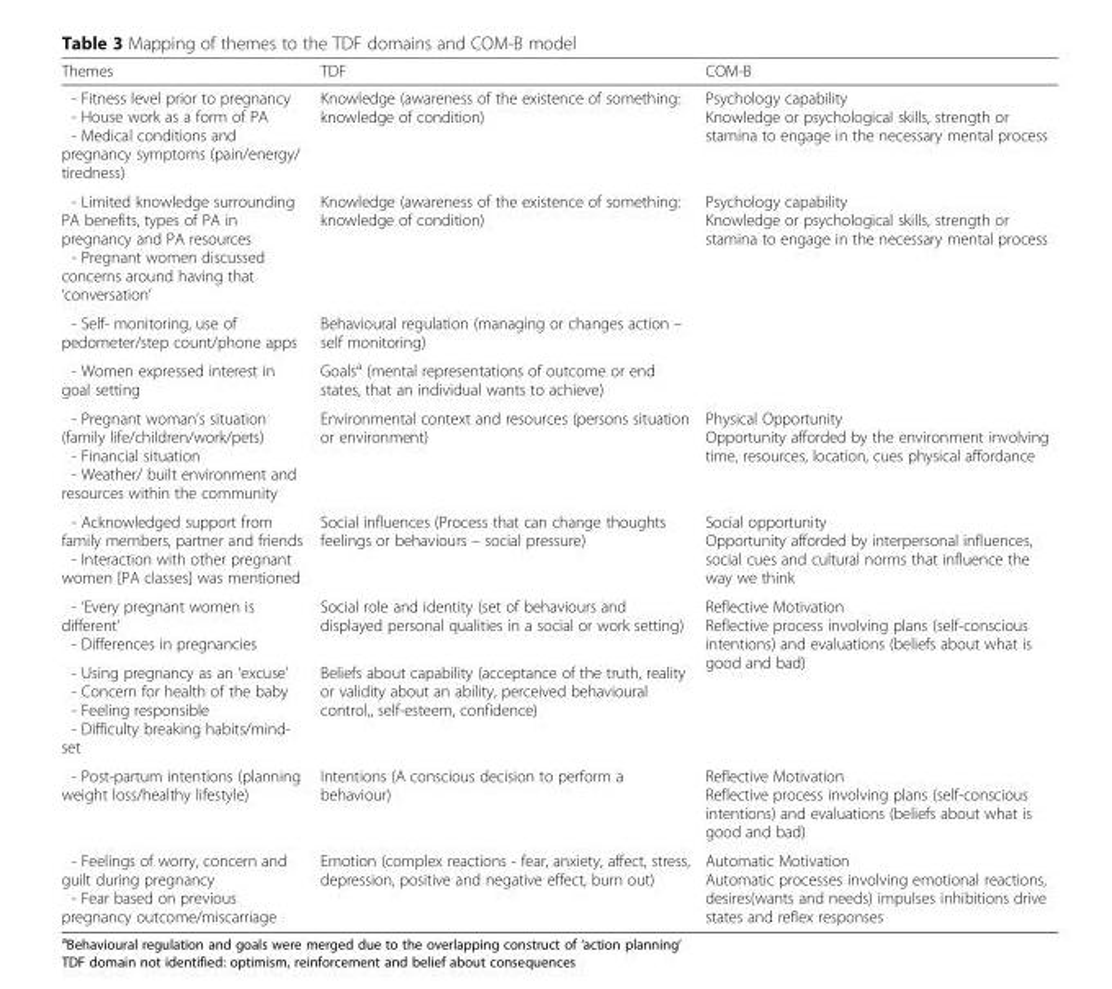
<table><thead><tr><td>Themes</td><td>TDF</td><td>COM-B</td></tr></thead><tbody><tr><td>- Fitness level prior to pregnancy - House work as a form of PA - Medical conditions and pregnancy symptoms (pain/energy/ tiredness)</td><td>Knowledge (awareness of the existence of something: knowledge of condition)</td><td>Psychology capability Knowledge or psychological skills, strength or stamina to engage in the necessary mental process</td></tr><tr><td>- Limited knowledge surrounding PA benefits, types of PA in pregnancy and PA resources - Pregnant women discussed concerns around having that ‘conversation’</td><td>Knowledge (awareness of the existence of something: knowledge of condition)</td><td rowspan="3">Psychology capability Knowledge or psychological skills, strength or stamina to engage in the necessary mental process</td></tr><tr><td>- Self- monitoring, use of pedometer/step count/phone apps</td><td>Behavioural regulation (managing or changes action – self monitoring)</td></tr><tr><td>- Women expressed interest in goal setting</td><td>Goals<sup>a</sup> (mental representations of outcome or end states, that an individual wants to achieve)</td></tr><tr><td>- Pregnant woman’s situation (family life/children/work/pets) - Financial situation - Weather/ built environment and resources within the community</td><td>Environmental context and resources (persons situation or environment)</td><td>Physical Opportunity Opportunity afforded by the environment involving time, resources, location, cues physical affordance</td></tr><tr><td>- Acknowledged support from family members, partner and friends - Interaction with other pregnant women [PA classes] was mentioned</td><td>Social influences (Process that can change thoughts feelings or behaviours – social pressure)</td><td>Social opportunity Opportunity afforded by interpersonal influences, social cues and cultural norms that influence the way we think</td></tr><tr><td>- ‘Every pregnant women is different’ - Differences in pregnancies</td><td>Social role and identity (set of behaviours and displayed personal qualities in a social or work setting)</td><td rowspan="2">Reflective Motivation Reflective process involving plans (self-conscious intentions) and evaluations (beliefs about what is good and bad)</td></tr><tr><td>- Using pregnancy as an ‘excuse’ - Concern for health of the baby - Feeling responsible - Difficulty breaking habits/mind- set</td><td>Beliefs about capability (acceptance of the truth, reality or validity about an ability, perceived behavioural control,, self-esteem, confidence)</td></tr><tr><td>- Post-partum intentions (planning weight loss/healthy lifestyle)</td><td>Intentions (A conscious decision to perform a behaviour)</td><td>Reflective Motivation Reflective process involving plans (self-conscious intentions) and evaluations (beliefs about what is good and bad)</td></tr><tr><td>- Feelings of worry, concern and guilt during pregnancy - Fear based on previous pregnancy outcome/miscarriage</td><td>Emotion (complex reactions - fear, anxiety, affect, stress, depression, positive and negative effect, burn out)</td><td>Automatic Motivation Automatic processes involving emotional reactions, desires(wants and needs) impulses inhibitions drive states and reflex responses</td></tr></tbody></table>